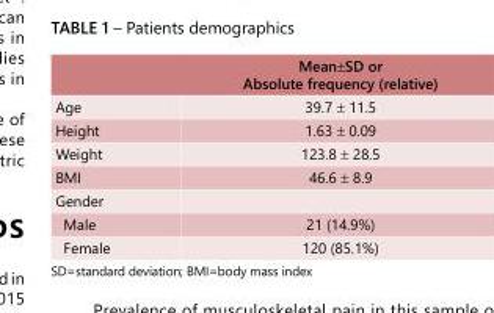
<table><thead><tr><td></td><td>Mean±SD or Absolute frequency (relative)</td></tr></thead><tbody><tr><td>Age</td><td>39.7 ± 11.5</td></tr><tr><td>Height</td><td>1.63 ± 0.09</td></tr><tr><td>Weight</td><td>123.8 ± 28.5</td></tr><tr><td>BMI</td><td>46.6 ± 8.9</td></tr><tr><td colspan="2">Gender</td></tr><tr><td>Male</td><td>21 (14.9%)</td></tr><tr><td>Female</td><td>120 (85.1%)</td></tr></tbody></table>